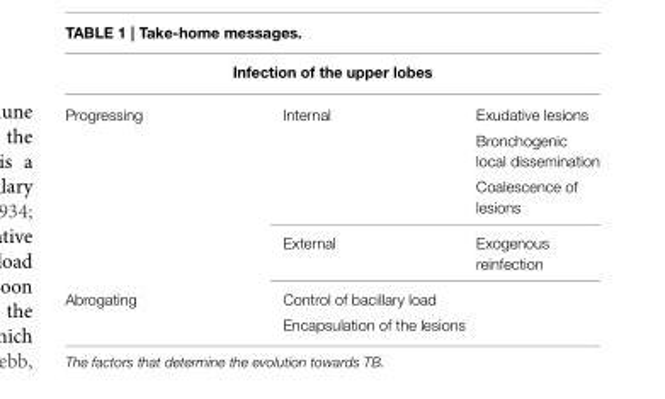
<table><thead><tr><td colspan="3">Infection of the upper lobes</td></tr><tr><td>Progressing</td><td>Internal</td><td>Exudative lesions</td></tr></thead><tbody><tr><td></td><td></td><td>Bronchogenic local dissemination</td></tr><tr><td></td><td></td><td>Coalescence of lesions</td></tr><tr><td></td><td>External</td><td>Exogenous reinfection</td></tr><tr><td rowspan="2">Abrogating</td><td colspan="2">Control of bacillary load</td></tr><tr><td colspan="2">Encapsulation of the lesions</td></tr></tbody></table>